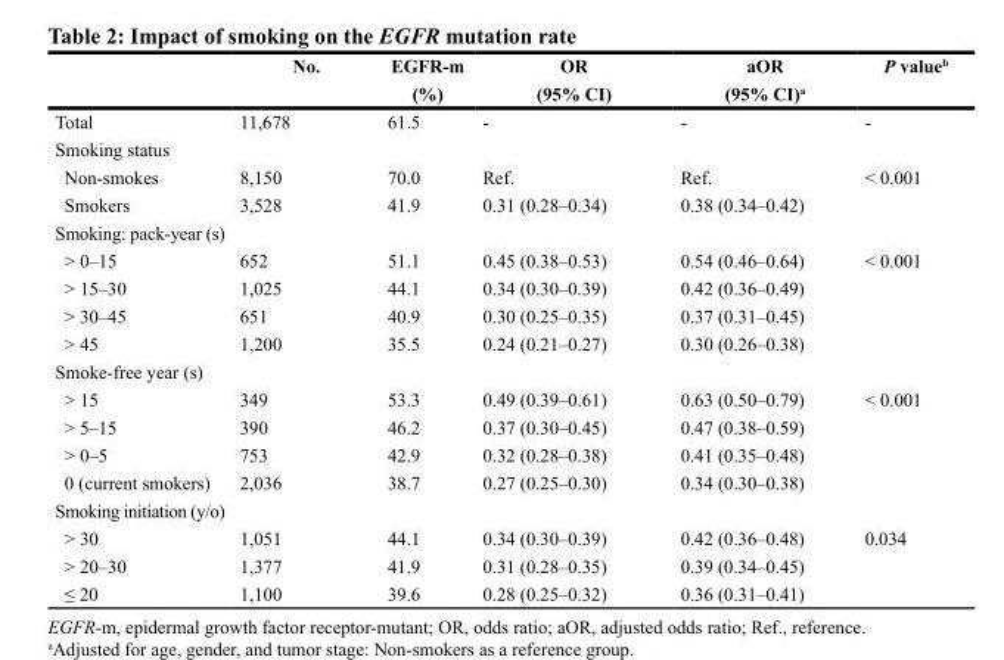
<table><thead><tr><td rowspan="2"></td><td rowspan="2">No.</td><td rowspan="2">EGFR-m (%)</td><td rowspan="2">OR (95% CI)</td><td rowspan="2">aOR (95% CI)<sup>a</sup></td><td rowspan="2">P value<sup>b</sup></td></tr><tr></tr></thead><tbody><tr><td>Total</td><td>11,678</td><td>61.5</td><td>-</td><td>-</td><td>-</td></tr><tr><td colspan="6">Smoking status</td></tr><tr><td>Non-smokes</td><td>8,150</td><td>70.0</td><td>Ref.</td><td>Ref.</td><td>&lt; 0.001</td></tr><tr><td>Smokers</td><td>3,528</td><td>41.9</td><td>0.31 (0.28–0.34)</td><td>0.38 (0.34–0.42)</td><td></td></tr><tr><td colspan="6">Smoking: pack-year (s)</td></tr><tr><td>&gt; 0–15</td><td>652</td><td>51.1</td><td>0.45 (0.38–0.53)</td><td>0.54 (0.46–0.64)</td><td>&lt; 0.001</td></tr><tr><td>&gt; 15–30</td><td>1,025</td><td>44.1</td><td>0.34 (0.30–0.39)</td><td>0.42 (0.36–0.49)</td><td></td></tr><tr><td>&gt; 30–45</td><td>651</td><td>40.9</td><td>0.30 (0.25–0.35)</td><td>0.37 (0.31–0.45)</td><td></td></tr><tr><td>&gt; 45</td><td>1,200</td><td>35.5</td><td>0.24 (0.21–0.27)</td><td>0.30 (0.26–0.38)</td><td></td></tr><tr><td colspan="6">Smoke-free year (s)</td></tr><tr><td>&gt; 15</td><td>349</td><td>53.3</td><td>0.49 (0.39–0.61)</td><td>0.63 (0.50–0.79)</td><td>&lt; 0.001</td></tr><tr><td>&gt; 5–15</td><td>390</td><td>46.2</td><td>0.37 (0.30–0.45)</td><td>0.47 (0.38–0.59)</td><td></td></tr><tr><td>&gt; 0–5</td><td>753</td><td>42.9</td><td>0.32 (0.28–0.38)</td><td>0.41 (0.35–0.48)</td><td></td></tr><tr><td>0 (current smokers)</td><td>2,036</td><td>38.7</td><td>0.27 (0.25–0.30)</td><td>0.34 (0.30–0.38)</td><td></td></tr><tr><td colspan="6">Smoking initiation (y/o)</td></tr><tr><td>&gt; 30</td><td>1,051</td><td>44.1</td><td>0.34 (0.30–0.39)</td><td>0.42 (0.36–0.48)</td><td>0.034</td></tr><tr><td>&gt; 20–30</td><td>1,377</td><td>41.9</td><td>0.31 (0.28–0.35)</td><td>0.39 (0.34–0.45)</td><td></td></tr><tr><td>≤ 20</td><td>1,100</td><td>39.6</td><td>0.28 (0.25–0.32)</td><td>0.36 (0.31–0.41)</td><td></td></tr></tbody></table>